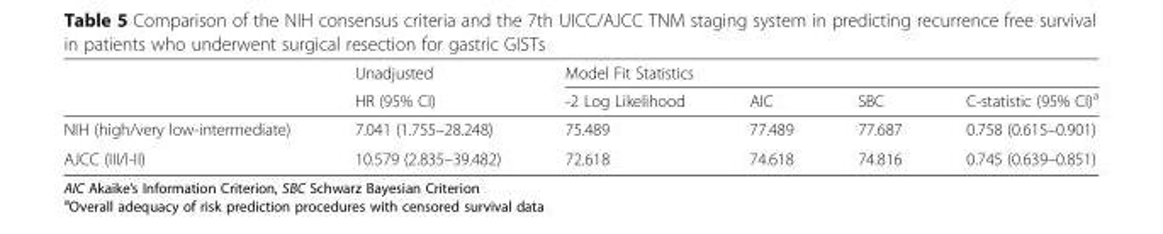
<table><thead><tr><td rowspan="2"></td><td rowspan="2">Unadjusted HR (95% CI)</td><td colspan="4">Model Fit Statistics</td></tr><tr><td>-2 Log Likelihood</td><td>AIC</td><td>SBC</td><td>C-statistic (95% CI)<sup>a</sup></td></tr></thead><tbody><tr><td>NIH (high/very low-intermediate)</td><td>7.041 (1.755–28.248)</td><td>75.489</td><td>77.489</td><td>77.687</td><td>0.758 (0.615–0.901)</td></tr><tr><td>AJCC (III/I-II)</td><td>10.579 (2.835–39.482)</td><td>72.618</td><td>74.618</td><td>74.816</td><td>0.745 (0.639–0.851)</td></tr></tbody></table>